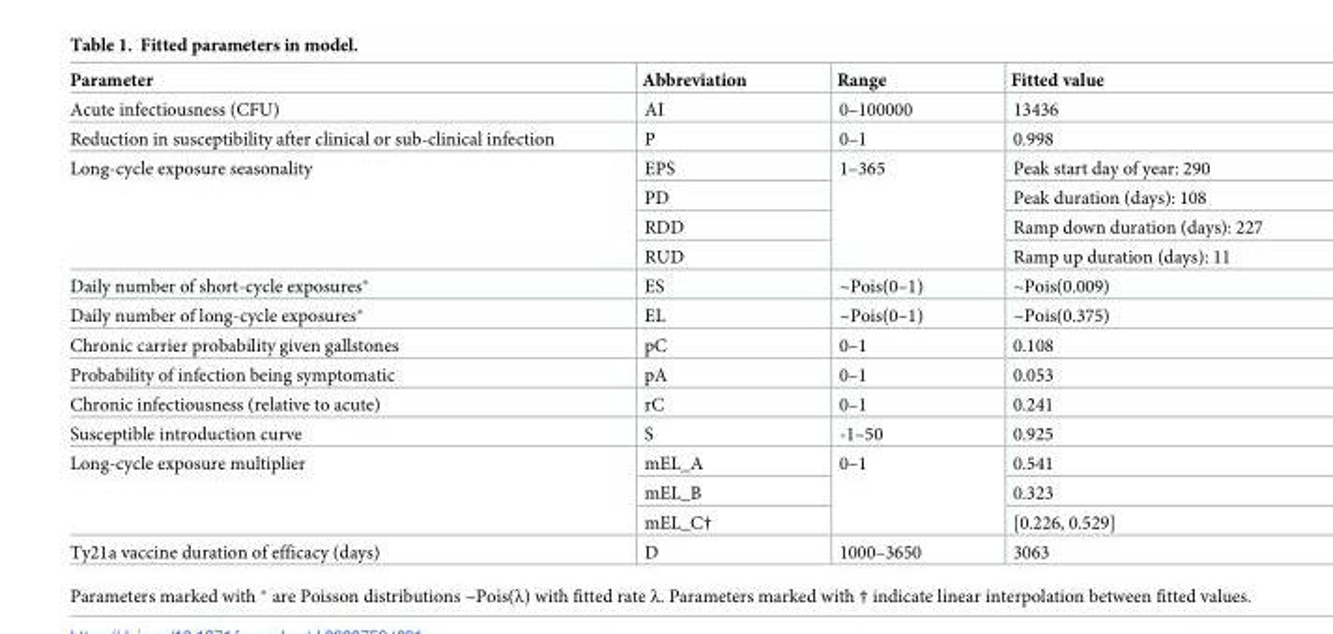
<table><thead><tr><td>Parameter</td><td>Abbreviation</td><td>Range</td><td>Fitted value</td></tr></thead><tbody><tr><td>Acute infectiousness (CFU)</td><td>AI</td><td>0–100000</td><td>13436</td></tr><tr><td>Reduction in susceptibility after clinical or sub-clinical infection</td><td>P</td><td>0–1</td><td>0.998</td></tr><tr><td rowspan="4">Long-cycle exposure seasonality</td><td>EPS</td><td rowspan="4">1–365</td><td>Peak start day of year: 290</td></tr><tr><td>PD</td><td>Peak duration (days): 108</td></tr><tr><td>RDD</td><td>Ramp down duration (days): 227</td></tr><tr><td>RUD</td><td>Ramp up duration (days): 11</td></tr><tr><td>Daily number of short-cycle exposures*</td><td>ES</td><td>~Pois(0–1)</td><td>~Pois(0.009)</td></tr><tr><td>Daily number of long-cycle exposures*</td><td>EL</td><td>~Pois(0–1)</td><td>~Pois(0.375)</td></tr><tr><td>Chronic carrier probability given gallstones</td><td>pC</td><td>0–1</td><td>0.108</td></tr><tr><td>Probability of infection being symptomatic</td><td>pA</td><td>0–1</td><td>0.053</td></tr><tr><td>Chronic infectiousness (relative to acute)</td><td>rC</td><td>0–1</td><td>0.241</td></tr><tr><td>Susceptible introduction curve</td><td>S</td><td>-1–50</td><td>0.925</td></tr><tr><td rowspan="3">Long-cycle exposure multiplier</td><td>mEL_A</td><td rowspan="3">0–1</td><td>0.541</td></tr><tr><td>mEL_B</td><td>0.323</td></tr><tr><td>mEL_C†</td><td>[0.226, 0.529]</td></tr><tr><td>Ty21a vaccine duration of efficacy (days)</td><td>D</td><td>1000–3650</td><td>3063</td></tr></tbody></table>